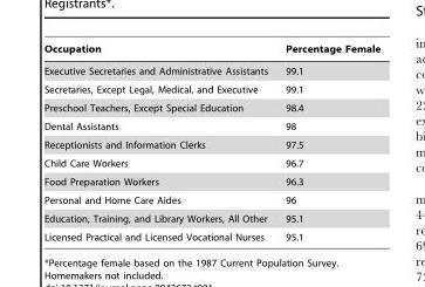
<table><thead><tr><td>Occupation</td><td>Percentage Female</td></tr></thead><tbody><tr><td>Executive Secretaries and Administrative Assistants</td><td>99.1</td></tr><tr><td>Secretaries, Except Legal, Medical, and Executive</td><td>99.1</td></tr><tr><td>Preschool Teachers, Except Special Education</td><td>98.4</td></tr><tr><td>Dental Assistants</td><td>98</td></tr><tr><td>Receptionists and Information Clerks</td><td>97.5</td></tr><tr><td>Child Care Workers</td><td>96.7</td></tr><tr><td>Food Preparation Workers</td><td>96.3</td></tr><tr><td>Personal and Home Care Aides</td><td>96</td></tr><tr><td>Education, Training, and Library Workers, All Other</td><td>95.1</td></tr><tr><td>Licensed Practical and Licensed Vocational Nurses</td><td>95.1</td></tr></tbody></table>